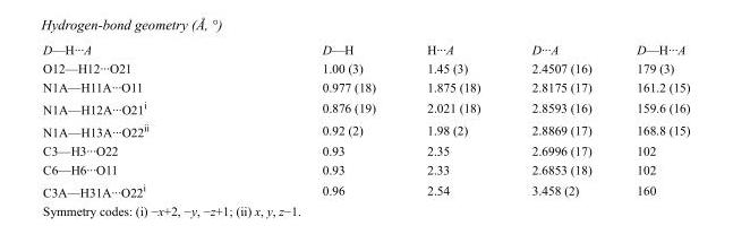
<table><tbody><tr><td>D—H···A</td><td>D—H</td><td>H···A</td><td>D···A</td><td>D—H···A</td></tr><tr><td>O12—H12···O21</td><td>1.00 (3)</td><td>1.45 (3)</td><td>2.4507 (16)</td><td>179 (3)</td></tr><tr><td>N1A—H11A···O11</td><td>0.977 (18)</td><td>1.875 (18)</td><td>2.8175 (17)</td><td>161.2 (15)</td></tr><tr><td>N1A—H12A···O21<sup>i</sup></td><td>0.876 (19)</td><td>2.021 (18)</td><td>2.8593 (16)</td><td>159.6 (16)</td></tr><tr><td>N1A—H13A···O22<sup>ii</sup></td><td>0.92 (2)</td><td>1.98 (2)</td><td>2.8869 (17)</td><td>168.8 (15)</td></tr><tr><td>C3—H3···O22</td><td>0.93</td><td>2.35</td><td>2.6996 (17)</td><td>102</td></tr><tr><td>C6—H6···O11</td><td>0.93</td><td>2.33</td><td>2.6853 (18)</td><td>102</td></tr><tr><td>C3A—H31A···O22<sup>i</sup></td><td>0.96</td><td>2.54</td><td>3.458 (2)</td><td>160</td></tr></tbody></table>